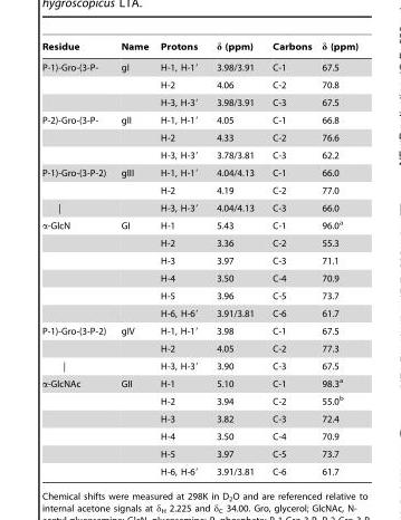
<table><thead><tr><td>Residue</td><td>Name</td><td>Protons</td><td>δ (ppm)</td><td>Carbons</td><td>δ (ppm)</td></tr></thead><tbody><tr><td rowspan="3">P-1)-Gro-(3-P-</td><td>gI</td><td>H-1, H-1′</td><td>3.98/3.91</td><td>C-1</td><td>67.5</td></tr><tr><td></td><td>H-2</td><td>4.06</td><td>C-2</td><td>70.8</td></tr><tr><td></td><td>H-3, H-3′</td><td>3.98/3.91</td><td>C-3</td><td>67.5</td></tr><tr><td rowspan="3">P-2)-Gro-(3-P-</td><td>gII</td><td>H-1, H-1′</td><td>4.05</td><td>C-1</td><td>66.8</td></tr><tr><td></td><td>H-2</td><td>4.33</td><td>C-2</td><td>76.6</td></tr><tr><td></td><td>H-3, H-3′</td><td>3.78/3.81</td><td>C-3</td><td>62.2</td></tr><tr><td rowspan="2">P-1)-Gro-(3-P-2)</td><td>gIII</td><td>H-1, H-1′</td><td>4.04/4.13</td><td>C-1</td><td>66.0</td></tr><tr><td></td><td>H-2</td><td>4.19</td><td>C-2</td><td>77.0</td></tr><tr><td>|</td><td></td><td>H-3, H-3′</td><td>4.04/4.13</td><td>C-3</td><td>66.0</td></tr><tr><td rowspan="6">α-GlcN</td><td>GI</td><td>H-1</td><td>5.43</td><td>C-1</td><td>96.0<sup>a</sup></td></tr><tr><td></td><td>H-2</td><td>3.36</td><td>C-2</td><td>55.3</td></tr><tr><td></td><td>H-3</td><td>3.97</td><td>C-3</td><td>71.1</td></tr><tr><td></td><td>H-4</td><td>3.50</td><td>C-4</td><td>70.9</td></tr><tr><td></td><td>H-5</td><td>3.96</td><td>C-5</td><td>73.7</td></tr><tr><td></td><td>H-6, H-6′</td><td>3.91/3.81</td><td>C-6</td><td>61.7</td></tr><tr><td rowspan="2">P-1)-Gro-(3-P-2)</td><td>gIV</td><td>H-1, H-1′</td><td>3.98</td><td>C-1</td><td>67.5</td></tr><tr><td></td><td>H-2</td><td>4.05</td><td>C-2</td><td>77.3</td></tr><tr><td>|</td><td></td><td>H-3, H-3′</td><td>3.90</td><td>C-3</td><td>67.5</td></tr><tr><td rowspan="6">α-GlcNAc</td><td>GII</td><td>H-1</td><td>5.10</td><td>C-1</td><td>98.3<sup>a</sup></td></tr><tr><td></td><td>H-2</td><td>3.94</td><td>C-2</td><td>55.0<sup>b</sup></td></tr><tr><td></td><td>H-3</td><td>3.82</td><td>C-3</td><td>72.4</td></tr><tr><td></td><td>H-4</td><td>3.50</td><td>C-4</td><td>70.9</td></tr><tr><td></td><td>H-5</td><td>3.97</td><td>C-5</td><td>73.7</td></tr><tr><td></td><td>H-6, H-6′</td><td>3.91/3.81</td><td>C-6</td><td>61.7</td></tr></tbody></table>